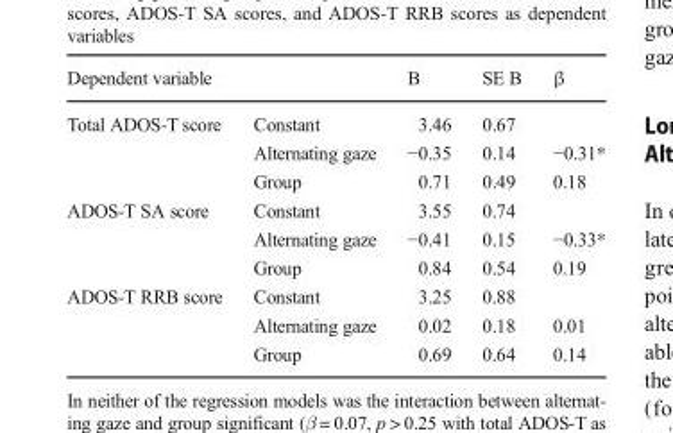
<table><thead><tr><td>Dependent variable</td><td></td><td>B</td><td>SE B</td><td>β</td></tr></thead><tbody><tr><td rowspan="3">Total ADOS-T score</td><td>Constant</td><td>3.46</td><td>0.67</td><td></td></tr><tr><td>Alternating gaze</td><td>−0.35</td><td>0.14</td><td>−0.31*</td></tr><tr><td>Group</td><td>0.71</td><td>0.49</td><td>0.18</td></tr><tr><td rowspan="3">ADOS-T SA score</td><td>Constant</td><td>3.55</td><td>0.74</td><td></td></tr><tr><td>Alternating gaze</td><td>−0.41</td><td>0.15</td><td>−0.33*</td></tr><tr><td>Group</td><td>0.84</td><td>0.54</td><td>0.19</td></tr><tr><td rowspan="3">ADOS-T RRB score</td><td>Constant</td><td>3.25</td><td>0.88</td><td></td></tr><tr><td>Alternating gaze</td><td>0.02</td><td>0.18</td><td>0.01</td></tr><tr><td>Group</td><td>0.69</td><td>0.64</td><td>0.14</td></tr></tbody></table>